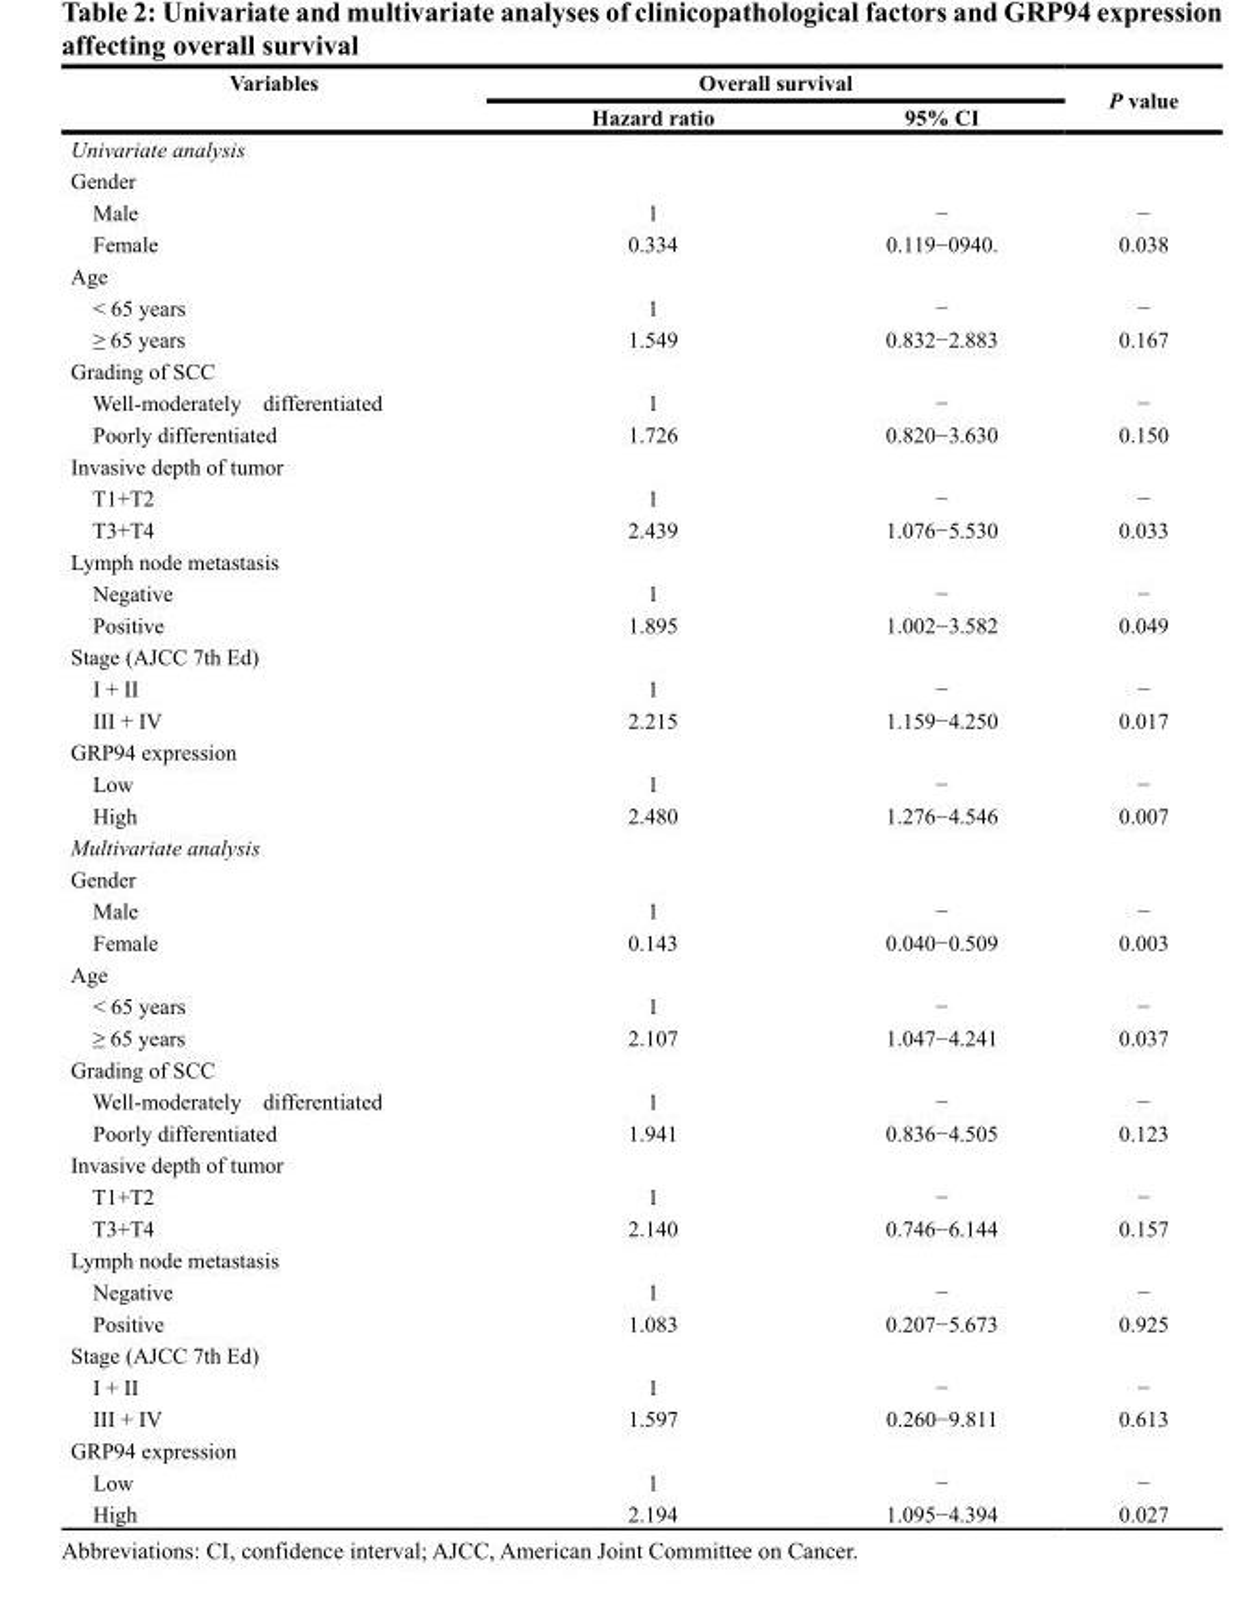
<table><thead><tr><td rowspan="2">Variables</td><td colspan="2">Overall survival</td><td rowspan="2">P value</td></tr><tr><td>Hazard ratio</td><td>95% CI</td></tr></thead><tbody><tr><td colspan="4">Univariate analysis</td></tr><tr><td colspan="4">Gender</td></tr><tr><td>Male</td><td>1</td><td>−</td><td>−</td></tr><tr><td>Female</td><td>0.334</td><td>0.119−0940.</td><td>0.038</td></tr><tr><td colspan="4">Age</td></tr><tr><td>&lt; 65 years</td><td>1</td><td>−</td><td>−</td></tr><tr><td>≥ 65 years</td><td>1.549</td><td>0.832−2.883</td><td>0.167</td></tr><tr><td colspan="4">Grading of SCC</td></tr><tr><td>Well-moderately differentiated</td><td>1</td><td>−</td><td>−</td></tr><tr><td>Poorly differentiated</td><td>1.726</td><td>0.820−3.630</td><td>0.150</td></tr><tr><td colspan="4">Invasive depth of tumor</td></tr><tr><td>T1+T2</td><td>1</td><td>−</td><td>−</td></tr><tr><td>T3+T4</td><td>2.439</td><td>1.076−5.530</td><td>0.033</td></tr><tr><td colspan="4">Lymph node metastasis</td></tr><tr><td>Negative</td><td>1</td><td>−</td><td>−</td></tr><tr><td>Positive</td><td>1.895</td><td>1.002−3.582</td><td>0.049</td></tr><tr><td colspan="4">Stage (AJCC 7th Ed)</td></tr><tr><td>I + II</td><td>1</td><td>−</td><td>−</td></tr><tr><td>III + IV</td><td>2.215</td><td>1.159−4.250</td><td>0.017</td></tr><tr><td colspan="4">GRP94 expression</td></tr><tr><td>Low</td><td>1</td><td>−</td><td>−</td></tr><tr><td>High</td><td>2.480</td><td>1.276−4.546</td><td>0.007</td></tr><tr><td colspan="4">Multivariate analysis</td></tr><tr><td colspan="4">Gender</td></tr><tr><td>Male</td><td>1</td><td>−</td><td>−</td></tr><tr><td>Female</td><td>0.143</td><td>0.040−0.509</td><td>0.003</td></tr><tr><td colspan="4">Age</td></tr><tr><td>&lt; 65 years</td><td>1</td><td>−</td><td>−</td></tr><tr><td>≥ 65 years</td><td>2.107</td><td>1.047−4.241</td><td>0.037</td></tr><tr><td colspan="4">Grading of SCC</td></tr><tr><td>Well-moderately differentiated</td><td>1</td><td>−</td><td>−</td></tr><tr><td>Poorly differentiated</td><td>1.941</td><td>0.836−4.505</td><td>0.123</td></tr><tr><td colspan="4">Invasive depth of tumor</td></tr><tr><td>T1+T2</td><td>1</td><td>−</td><td>−</td></tr><tr><td>T3+T4</td><td>2.140</td><td>0.746−6.144</td><td>0.157</td></tr><tr><td colspan="4">Lymph node metastasis</td></tr><tr><td>Negative</td><td>1</td><td>−</td><td>−</td></tr><tr><td>Positive</td><td>1.083</td><td>0.207−5.673</td><td>0.925</td></tr><tr><td colspan="4">Stage (AJCC 7th Ed)</td></tr><tr><td>I + II</td><td>1</td><td>−</td><td>−</td></tr><tr><td>III + IV</td><td>1.597</td><td>0.260−9.811</td><td>0.613</td></tr><tr><td colspan="4">GRP94 expression</td></tr><tr><td>Low</td><td>1</td><td>−</td><td>−</td></tr><tr><td>High</td><td>2.194</td><td>1.095−4.394</td><td>0.027</td></tr></tbody></table>